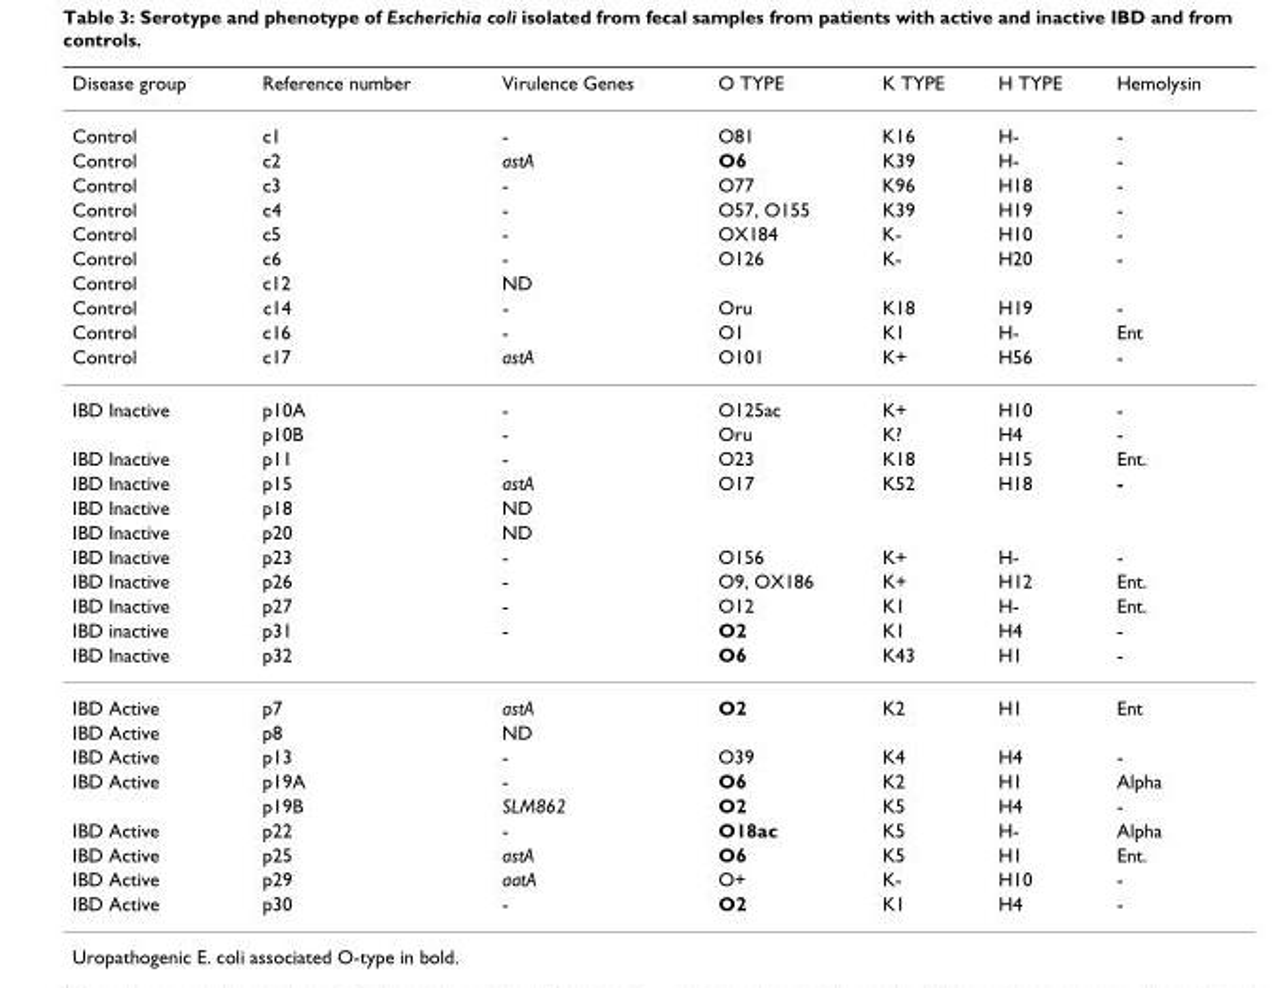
<table><thead><tr><td>Disease group</td><td>Reference number</td><td>Virulence Genes</td><td>O TYPE</td><td>K TYPE</td><td>H TYPE</td><td>Hemolysin</td></tr></thead><tbody><tr><td>Control</td><td>c1</td><td>-</td><td>O81</td><td>K16</td><td>H-</td><td>-</td></tr><tr><td>Control</td><td>c2</td><td>astA</td><td>O6</td><td>K39</td><td>H-</td><td>-</td></tr><tr><td>Control</td><td>c3</td><td>-</td><td>O77</td><td>K96</td><td>H18</td><td>-</td></tr><tr><td>Control</td><td>c4</td><td>-</td><td>O57, O155</td><td>K39</td><td>H19</td><td>-</td></tr><tr><td>Control</td><td>c5</td><td>-</td><td>OX184</td><td>K-</td><td>H10</td><td>-</td></tr><tr><td>Control</td><td>c6</td><td>-</td><td>O126</td><td>K-</td><td>H20</td><td>-</td></tr><tr><td>Control</td><td>c12</td><td>ND</td><td></td><td></td><td></td><td></td></tr><tr><td>Control</td><td>c14</td><td>-</td><td>Oru</td><td>K18</td><td>H19</td><td>-</td></tr><tr><td>Control</td><td>c16</td><td>-</td><td>O1</td><td>K1</td><td>H-</td><td>Ent</td></tr><tr><td>Control</td><td>c17</td><td>astA</td><td>O101</td><td>K+</td><td>H56</td><td>-</td></tr><tr><td rowspan="2">IBD Inactive</td><td>p10A</td><td>-</td><td>O125ac</td><td>K+</td><td>H10</td><td>-</td></tr><tr><td>p10B</td><td>-</td><td>Oru</td><td>K?</td><td>H4</td><td>-</td></tr><tr><td>IBD Inactive</td><td>p11</td><td>-</td><td>O23</td><td>K18</td><td>H15</td><td>Ent.</td></tr><tr><td>IBD Inactive</td><td>p15</td><td>astA</td><td>O17</td><td>K52</td><td>H18</td><td>-</td></tr><tr><td>IBD Inactive</td><td>p18</td><td>ND</td><td></td><td></td><td></td><td></td></tr><tr><td>IBD Inactive</td><td>p20</td><td>ND</td><td></td><td></td><td></td><td></td></tr><tr><td>IBD Inactive</td><td>p23</td><td>-</td><td>O156</td><td>K+</td><td>H-</td><td>-</td></tr><tr><td>IBD Inactive</td><td>p26</td><td>-</td><td>O9, OX186</td><td>K+</td><td>H12</td><td>Ent.</td></tr><tr><td>IBD Inactive</td><td>p27</td><td>-</td><td>O12</td><td>K1</td><td>H-</td><td>Ent.</td></tr><tr><td>IBD inactive</td><td>p31</td><td>-</td><td>O2</td><td>K1</td><td>H4</td><td>-</td></tr><tr><td>IBD Inactive</td><td>p32</td><td></td><td>O6</td><td>K43</td><td>H1</td><td>-</td></tr><tr><td>IBD Active</td><td>p7</td><td>astA</td><td>O2</td><td>K2</td><td>H1</td><td>Ent</td></tr><tr><td>IBD Active</td><td>p8</td><td>ND</td><td></td><td></td><td></td><td></td></tr><tr><td>IBD Active</td><td>p13</td><td>-</td><td>O39</td><td>K4</td><td>H4</td><td>-</td></tr><tr><td rowspan="2">IBD Active</td><td>p19A</td><td>-</td><td>O6</td><td>K2</td><td>H1</td><td>Alpha</td></tr><tr><td>p19B</td><td>SLM862</td><td>O2</td><td>K5</td><td>H4</td><td>-</td></tr><tr><td>IBD Active</td><td>p22</td><td>-</td><td>O18ac</td><td>K5</td><td>H-</td><td>Alpha</td></tr><tr><td>IBD Active</td><td>p25</td><td>astA</td><td>O6</td><td>K5</td><td>H1</td><td>Ent.</td></tr><tr><td>IBD Active</td><td>p29</td><td>aatA</td><td>O+</td><td>K-</td><td>H10</td><td>-</td></tr><tr><td>IBD Active</td><td>p30</td><td>-</td><td>O2</td><td>K1</td><td>H4</td><td>-</td></tr></tbody></table>